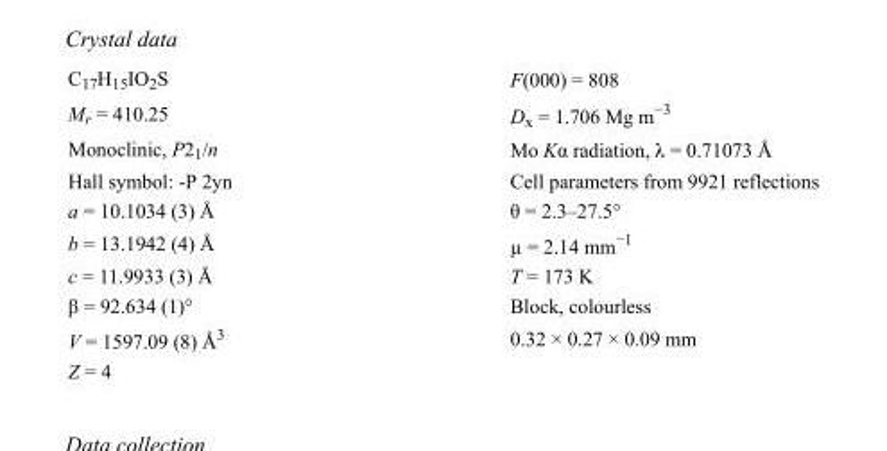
<table><tbody><tr><td>C<sub>17</sub>H<sub>15</sub>IO<sub>2</sub>S</td><td>F(000) = 808</td></tr><tr><td>M<sub>r</sub> = 410.25</td><td>D<sub>x</sub> = 1.706 Mg m<sup>−3</sup></td></tr><tr><td>Monoclinic, P2<sub>1</sub>/n</td><td>Mo Kα radiation, λ = 0.71073 Å</td></tr><tr><td>Hall symbol: -P 2yn</td><td>Cell parameters from 9921 reflections</td></tr><tr><td>a = 10.1034 (3) Å</td><td>θ = 2.3–27.5°</td></tr><tr><td>b = 13.1942 (4) Å</td><td>µ = 2.14 mm<sup>−1</sup></td></tr><tr><td>c = 11.9933 (3) Å</td><td>T = 173 K</td></tr><tr><td>β = 92.634 (1)°</td><td>Block, colourless</td></tr><tr><td>V = 1597.09 (8) Å<sup>3</sup></td><td>0.32 × 0.27 × 0.09 mm</td></tr><tr><td>Z = 4</td><td></td></tr></tbody></table>